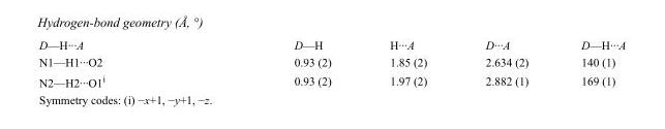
<table><tbody><tr><td>D—H···A</td><td>D—H</td><td>H···A</td><td>D···A</td><td>D—H···A</td></tr><tr><td>N1—H1···O2</td><td>0.93 (2)</td><td>1.85 (2)</td><td>2.634 (2)</td><td>140 (1)</td></tr><tr><td>N2—H2···O1<sup>i</sup></td><td>0.93 (2)</td><td>1.97 (2)</td><td>2.882 (1)</td><td>169 (1)</td></tr></tbody></table>